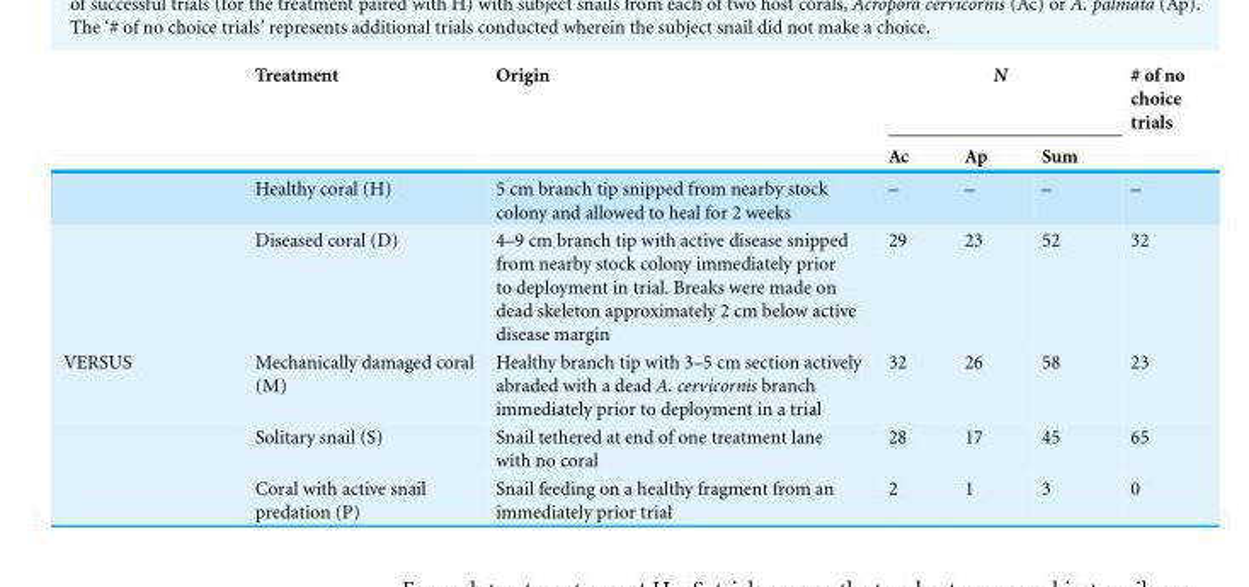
<table><thead><tr><td rowspan="2"></td><td rowspan="2">Treatment</td><td rowspan="2">Origin</td><td colspan="3">N</td><td rowspan="2"># of no choice trials</td></tr><tr><td>Ac</td><td>Ap</td><td>Sum</td></tr></thead><tbody><tr><td></td><td>Healthy coral (H)</td><td>5 cm branch tip snipped from nearby stock colony and allowed to heal for 2 weeks</td><td>–</td><td>–</td><td>–</td><td>–</td></tr><tr><td></td><td>Diseased coral (D)</td><td>4–9 cm branch tip with active disease snipped from nearby stock colony immediately prior to deployment in trial. Breaks were made on dead skeleton approximately 2 cm below active disease margin</td><td>29</td><td>23</td><td>52</td><td>32</td></tr><tr><td rowspan="3">VERSUS</td><td>Mechanically damaged coral (M)</td><td>Healthy branch tip with 3–5 cm section actively abraded with a dead A. cervicornis branch immediately prior to deployment in a trial</td><td>32</td><td>26</td><td>58</td><td>23</td></tr><tr><td>Solitary snail (S)</td><td>Snail tethered at end of one treatment lane with no coral</td><td>28</td><td>17</td><td>45</td><td>65</td></tr><tr><td>Coral with active snail predation (P)</td><td>Snail feeding on a healthy fragment from an immediately prior trial</td><td>2</td><td>1</td><td>3</td><td>0</td></tr></tbody></table>